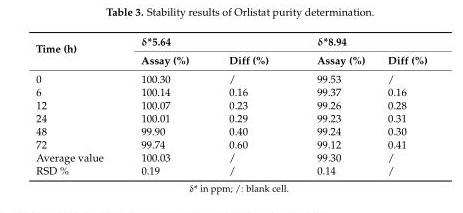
<table><thead><tr><td rowspan="2">Time (h)</td><td colspan="2">δ*5.64</td><td colspan="2">δ*8.94</td></tr><tr><td>Assay (%)</td><td>Diff (%)</td><td>Assay (%)</td><td>Diff (%)</td></tr></thead><tbody><tr><td>0</td><td>100.30</td><td>/</td><td>99.53</td><td>/</td></tr><tr><td>6</td><td>100.14</td><td>0.16</td><td>99.37</td><td>0.16</td></tr><tr><td>12</td><td>100.07</td><td>0.23</td><td>99.26</td><td>0.28</td></tr><tr><td>24</td><td>100.01</td><td>0.29</td><td>99.23</td><td>0.31</td></tr><tr><td>48</td><td>99.90</td><td>0.40</td><td>99.24</td><td>0.30</td></tr><tr><td>72</td><td>99.74</td><td>0.60</td><td>99.12</td><td>0.41</td></tr><tr><td>Average value</td><td>100.03</td><td>/</td><td>99.30</td><td>/</td></tr><tr><td>RSD %</td><td>0.19</td><td>/</td><td>0.14</td><td>/</td></tr></tbody></table>